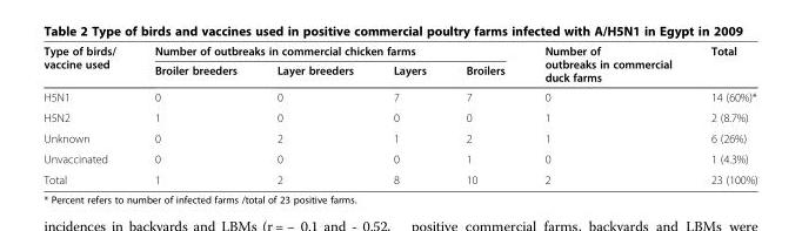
<table><thead><tr><td rowspan="2">Type of birds/ vaccine used</td><td colspan="4">Number of outbreaks in commercial chicken farms</td><td rowspan="2">Number of outbreaks in commercial duck farms</td><td rowspan="2">Total</td></tr><tr><td>Broiler breeders</td><td>Layer breeders</td><td>Layers</td><td>Broilers</td></tr></thead><tbody><tr><td>H5N1</td><td>0</td><td>0</td><td>7</td><td>7</td><td>0</td><td>14 (60%)*</td></tr><tr><td>H5N2</td><td>1</td><td>0</td><td>0</td><td>0</td><td>1</td><td>2 (8.7%)</td></tr><tr><td>Unknown</td><td>0</td><td>2</td><td>1</td><td>2</td><td>1</td><td>6 (26%)</td></tr><tr><td>Unvaccinated</td><td>0</td><td>0</td><td>0</td><td>1</td><td>0</td><td>1 (4.3%)</td></tr><tr><td>Total</td><td>1</td><td>2</td><td>8</td><td>10</td><td>2</td><td>23 (100%)</td></tr></tbody></table>